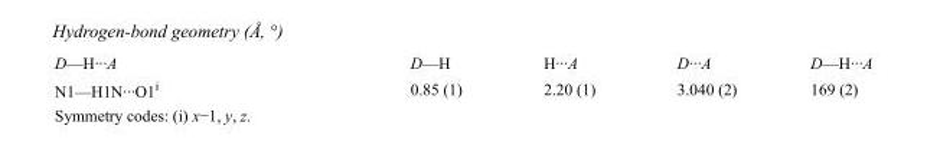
<table><tbody><tr><td>D—H···A</td><td>D—H</td><td>H···A</td><td>D···A</td><td>D—H···A</td></tr><tr><td>N1—H1N···O1<sup>i</sup></td><td>0.85 (1)</td><td>2.20 (1)</td><td>3.040 (2)</td><td>169 (2)</td></tr></tbody></table>